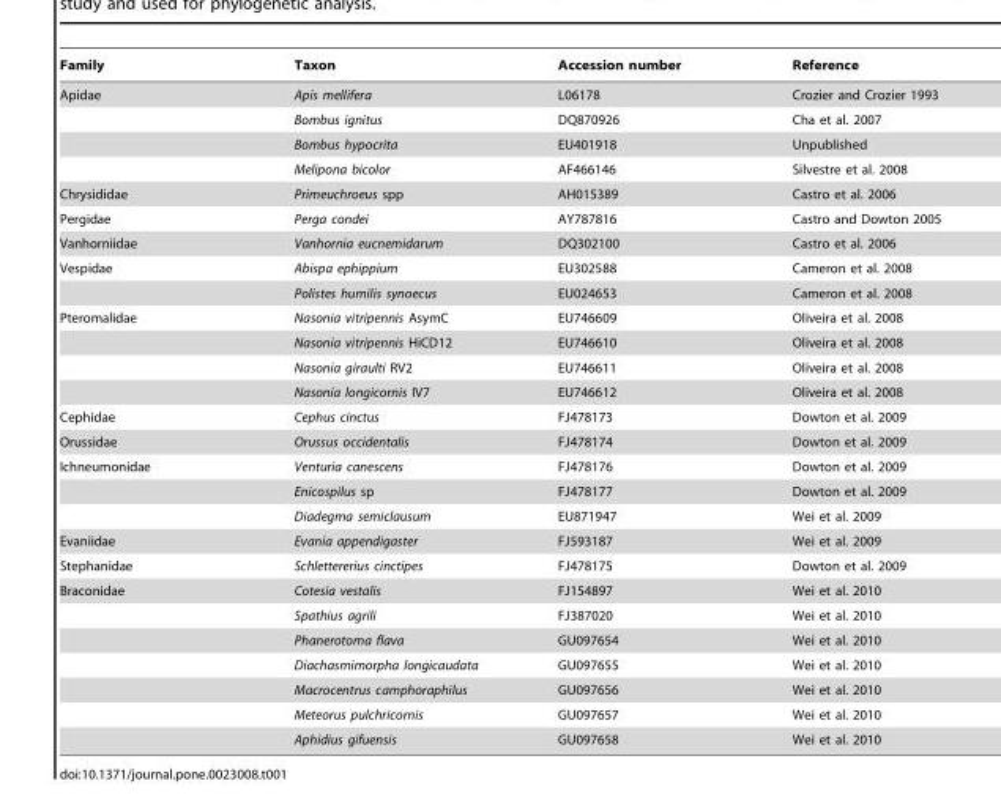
<table><thead><tr><td>Family</td><td>Taxon</td><td>Accession number</td><td>Reference</td></tr></thead><tbody><tr><td rowspan="4">Apidae</td><td>Apis mellifera</td><td>L06178</td><td>Crozier and Crozier 1993</td></tr><tr><td>Bombus ignitus</td><td>DQ870926</td><td>Cha et al. 2007</td></tr><tr><td>Bombus hypocrita</td><td>EU401918</td><td>Unpublished</td></tr><tr><td>Melipona bicolor</td><td>AF466146</td><td>Silvestre et al. 2008</td></tr><tr><td>Chrysididae</td><td>Primeuchroeus spp</td><td>AH015389</td><td>Castro et al. 2006</td></tr><tr><td>Pergidae</td><td>Perga condei</td><td>AY787816</td><td>Castro and Dowton 2005</td></tr><tr><td>Vanhorniidae</td><td>Vanhornia eucnemidarum</td><td>DQ302100</td><td>Castro et al. 2006</td></tr><tr><td rowspan="2">Vespidae</td><td>Abispa ephippium</td><td>EU302588</td><td>Cameron et al. 2008</td></tr><tr><td>Polistes humilis synoecus</td><td>EU024653</td><td>Cameron et al. 2008</td></tr><tr><td rowspan="4">Pteromalidae</td><td>Nasonia vitripennis AsymC</td><td>EU746609</td><td>Oliveira et al. 2008</td></tr><tr><td>Nasonia vitripennis HiCD12</td><td>EU746610</td><td>Oliveira et al. 2008</td></tr><tr><td>Nasonia giraulti RV2</td><td>EU746611</td><td>Oliveira et al. 2008</td></tr><tr><td>Nasonia longicornis IV7</td><td>EU746612</td><td>Oliveira et al. 2008</td></tr><tr><td>Cephidae</td><td>Cephus cinctus</td><td>FJ478173</td><td>Dowton et al. 2009</td></tr><tr><td>Orussidae</td><td>Orussus occidentalis</td><td>FJ478174</td><td>Dowton et al. 2009</td></tr><tr><td rowspan="3">Ichneumonidae</td><td>Venturia canescens</td><td>FJ478176</td><td>Dowton et al. 2009</td></tr><tr><td>Enicospilus sp</td><td>FJ478177</td><td>Dowton et al. 2009</td></tr><tr><td>Diadegma semiclausum</td><td>EU871947</td><td>Wei et al. 2009</td></tr><tr><td>Evaniidae</td><td>Evania appendigaster</td><td>FJ593187</td><td>Wei et al. 2009</td></tr><tr><td>Stephanidae</td><td>Schlettererius cinctipes</td><td>FJ478175</td><td>Dowton et al. 2009</td></tr><tr><td rowspan="7">Braconidae</td><td>Cotesia vestalis</td><td>FJ154897</td><td>Wei et al. 2010</td></tr><tr><td>Spathius agrili</td><td>FJ387020</td><td>Wei et al. 2010</td></tr><tr><td>Phanerotoma flava</td><td>GU097654</td><td>Wei et al. 2010</td></tr><tr><td>Diachasmimorpha longicaudata</td><td>GU097655</td><td>Wei et al. 2010</td></tr><tr><td>Macrocentrus camphoraphilus</td><td>GU097656</td><td>Wei et al. 2010</td></tr><tr><td>Meteorus pulchricornis</td><td>GU097657</td><td>Wei et al. 2010</td></tr><tr><td>Aphidius gifuensis</td><td>GU097658</td><td>Wei et al. 2010</td></tr></tbody></table>